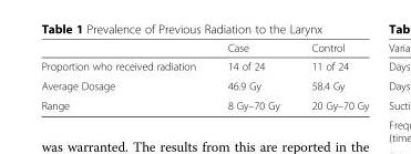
<table><thead><tr><td></td><td>Case</td><td>Control</td></tr></thead><tbody><tr><td>Proportion who received radiation</td><td>14 of 24</td><td>11 of 24</td></tr><tr><td>Average Dosage</td><td>46.9 Gy</td><td>58.4 Gy</td></tr><tr><td>Range</td><td>8 Gy–70 Gy</td><td>20 Gy–70 Gy</td></tr></tbody></table>